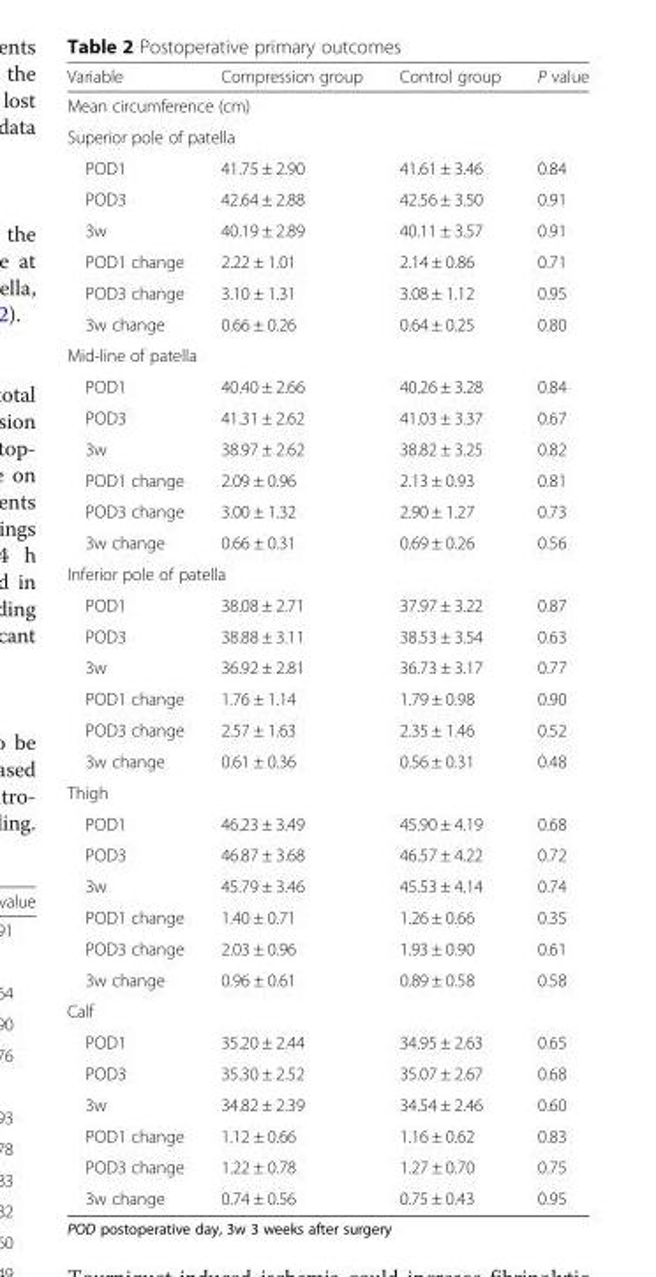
<table><thead><tr><td>Variable</td><td>Compression group</td><td>Control group</td><td>P value</td></tr></thead><tbody><tr><td colspan="4">Mean circumference (cm)</td></tr><tr><td colspan="4">Superior pole of patella</td></tr><tr><td>POD1</td><td>41.75 ± 2.90</td><td>41.61 ± 3.46</td><td>0.84</td></tr><tr><td>POD3</td><td>42.64 ± 2.88</td><td>42.56 ± 3.50</td><td>0.91</td></tr><tr><td>3w</td><td>40.19 ± 2.89</td><td>40.11 ± 3.57</td><td>0.91</td></tr><tr><td>POD1 change</td><td>2.22 ± 1.01</td><td>2.14 ± 0.86</td><td>0.71</td></tr><tr><td>POD3 change</td><td>3.10 ± 1.31</td><td>3.08 ± 1.12</td><td>0.95</td></tr><tr><td>3w change</td><td>0.66 ± 0.26</td><td>0.64 ± 0.25</td><td>0.80</td></tr><tr><td colspan="4">Mid-line of patella</td></tr><tr><td>POD1</td><td>40.40 ± 2.66</td><td>40.26 ± 3.28</td><td>0.84</td></tr><tr><td>POD3</td><td>41.31 ± 2.62</td><td>41.03 ± 3.37</td><td>0.67</td></tr><tr><td>3w</td><td>38.97 ± 2.62</td><td>38.82 ± 3.25</td><td>0.82</td></tr><tr><td>POD1 change</td><td>2.09 ± 0.96</td><td>2.13 ± 0.93</td><td>0.81</td></tr><tr><td>POD3 change</td><td>3.00 ± 1.32</td><td>2.90 ± 1.27</td><td>0.73</td></tr><tr><td>3w change</td><td>0.66 ± 0.31</td><td>0.69 ± 0.26</td><td>0.56</td></tr><tr><td colspan="4">Inferior pole of patella</td></tr><tr><td>POD1</td><td>38.08 ± 2.71</td><td>37.97 ± 3.22</td><td>0.87</td></tr><tr><td>POD3</td><td>38.88 ± 3.11</td><td>38.53 ± 3.54</td><td>0.63</td></tr><tr><td>3w</td><td>36.92 ± 2.81</td><td>36.73 ± 3.17</td><td>0.77</td></tr><tr><td>POD1 change</td><td>1.76 ± 1.14</td><td>1.79 ± 0.98</td><td>0.90</td></tr><tr><td>POD3 change</td><td>2.57 ± 1.63</td><td>2.35 ± 1.46</td><td>0.52</td></tr><tr><td>3w change</td><td>0.61 ± 0.36</td><td>0.56 ± 0.31</td><td>0.48</td></tr><tr><td colspan="4">Thigh</td></tr><tr><td>POD1</td><td>46.23 ± 3.49</td><td>45.90 ± 4.19</td><td>0.68</td></tr><tr><td>POD3</td><td>46.87 ± 3.68</td><td>46.57 ± 4.22</td><td>0.72</td></tr><tr><td>3w</td><td>45.79 ± 3.46</td><td>45.53 ± 4.14</td><td>0.74</td></tr><tr><td>POD1 change</td><td>1.40 ± 0.71</td><td>1.26 ± 0.66</td><td>0.35</td></tr><tr><td>POD3 change</td><td>2.03 ± 0.96</td><td>1.93 ± 0.90</td><td>0.61</td></tr><tr><td>3w change</td><td>0.96 ± 0.61</td><td>0.89 ± 0.58</td><td>0.58</td></tr><tr><td colspan="4">Calf</td></tr><tr><td>POD1</td><td>35.20 ± 2.44</td><td>34.95 ± 2.63</td><td>0.65</td></tr><tr><td>POD3</td><td>35.30 ± 2.52</td><td>35.07 ± 2.67</td><td>0.68</td></tr><tr><td>3w</td><td>34.82 ± 2.39</td><td>34.54 ± 2.46</td><td>0.60</td></tr><tr><td>POD1 change</td><td>1.12 ± 0.66</td><td>1.16 ± 0.62</td><td>0.83</td></tr><tr><td>POD3 change</td><td>1.22 ± 0.78</td><td>1.27 ± 0.70</td><td>0.75</td></tr><tr><td>3w change</td><td>0.74 ± 0.56</td><td>0.75 ± 0.43</td><td>0.95</td></tr></tbody></table>